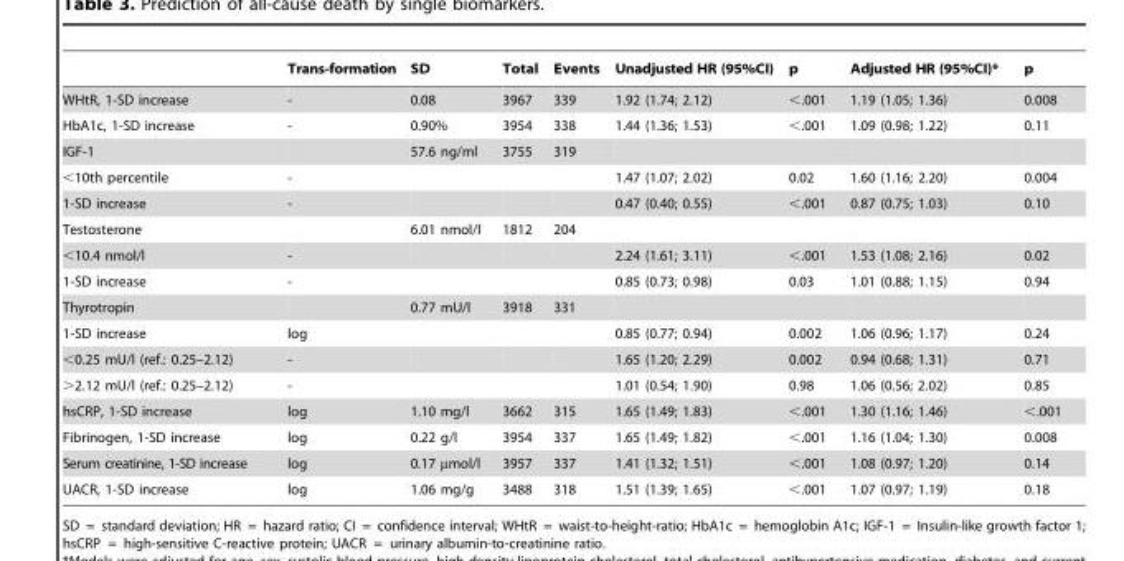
<table><thead><tr><td></td><td>Trans-formation</td><td>SD</td><td>Total</td><td>Events</td><td>Unadjusted HR (95%CI)</td><td>p</td><td>Adjusted HR (95%CI)*</td><td>p</td></tr></thead><tbody><tr><td>WHtR, 1-SD increase</td><td>-</td><td>0.08</td><td>3967</td><td>339</td><td>1.92 (1.74; 2.12)</td><td>&lt;.001</td><td>1.19 (1.05; 1.36)</td><td>0.008</td></tr><tr><td>HbA1c, 1-SD increase</td><td>-</td><td>0.90%</td><td>3954</td><td>338</td><td>1.44 (1.36; 1.53)</td><td>&lt;.001</td><td>1.09 (0.98; 1.22)</td><td>0.11</td></tr><tr><td>IGF-1</td><td></td><td>57.6 ng/ml</td><td>3755</td><td>319</td><td></td><td></td><td></td><td></td></tr><tr><td>&lt;10th percentile</td><td>-</td><td></td><td></td><td></td><td>1.47 (1.07; 2.02)</td><td>0.02</td><td>1.60 (1.16; 2.20)</td><td>0.004</td></tr><tr><td>1-SD increase</td><td>-</td><td></td><td></td><td></td><td>0.47 (0.40; 0.55)</td><td>&lt;.001</td><td>0.87 (0.75; 1.03)</td><td>0.10</td></tr><tr><td>Testosterone</td><td></td><td>6.01 nmol/l</td><td>1812</td><td>204</td><td></td><td></td><td></td><td></td></tr><tr><td>&lt;10.4 nmol/l</td><td>-</td><td></td><td></td><td></td><td>2.24 (1.61; 3.11)</td><td>&lt;.001</td><td>1.53 (1.08; 2.16)</td><td>0.02</td></tr><tr><td>1-SD increase</td><td>-</td><td></td><td></td><td></td><td>0.85 (0.73; 0.98)</td><td>0.03</td><td>1.01 (0.88; 1.15)</td><td>0.94</td></tr><tr><td>Thyrotropin</td><td></td><td>0.77 mU/l</td><td>3918</td><td>331</td><td></td><td></td><td></td><td></td></tr><tr><td>1-SD increase</td><td>log</td><td></td><td></td><td></td><td>0.85 (0.77; 0.94)</td><td>0.002</td><td>1.06 (0.96; 1.17)</td><td>0.24</td></tr><tr><td>&lt;0.25 mU/l (ref.: 0.25–2.12)</td><td>-</td><td></td><td></td><td></td><td>1.65 (1.20; 2.29)</td><td>0.002</td><td>0.94 (0.68; 1.31)</td><td>0.71</td></tr><tr><td>&gt;2.12 mU/l (ref.: 0.25–2.12)</td><td>-</td><td></td><td></td><td></td><td>1.01 (0.54; 1.90)</td><td>0.98</td><td>1.06 (0.56; 2.02)</td><td>0.85</td></tr><tr><td>hsCRP, 1-SD increase</td><td>log</td><td>1.10 mg/l</td><td>3662</td><td>315</td><td>1.65 (1.49; 1.83)</td><td>&lt;.001</td><td>1.30 (1.16; 1.46)</td><td>&lt;.001</td></tr><tr><td>Fibrinogen, 1-SD increase</td><td>log</td><td>0.22 g/l</td><td>3954</td><td>337</td><td>1.65 (1.49; 1.82)</td><td>&lt;.001</td><td>1.16 (1.04; 1.30)</td><td>0.008</td></tr><tr><td>Serum creatinine, 1-SD increase</td><td>log</td><td>0.17 µmol/l</td><td>3957</td><td>337</td><td>1.41 (1.32; 1.51)</td><td>&lt;.001</td><td>1.08 (0.97; 1.20)</td><td>0.14</td></tr><tr><td>UACR, 1-SD increase</td><td>log</td><td>1.06 mg/g</td><td>3488</td><td>318</td><td>1.51 (1.39; 1.65)</td><td>&lt;.001</td><td>1.07 (0.97; 1.19)</td><td>0.18</td></tr></tbody></table>